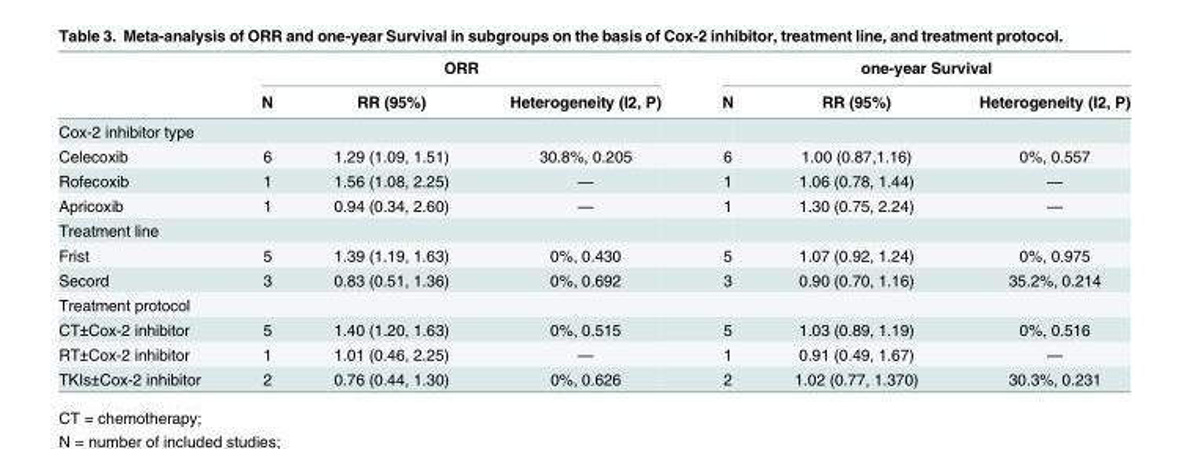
<table><thead><tr><td rowspan="2"></td><td colspan="3">ORR</td><td colspan="3">one-year Survival</td></tr><tr><td>N</td><td>RR (95%)</td><td>Heterogeneity (I2, P)</td><td>N</td><td>RR (95%)</td><td>Heterogeneity (I2, P)</td></tr></thead><tbody><tr><td colspan="7">Cox-2 inhibitor type</td></tr><tr><td>Celecoxib</td><td>6</td><td>1.29 (1.09, 1.51)</td><td>30.8%, 0.205</td><td>6</td><td>1.00 (0.87,1.16)</td><td>0%, 0.557</td></tr><tr><td>Rofecoxib</td><td>1</td><td>1.56 (1.08, 2.25)</td><td>—</td><td>1</td><td>1.06 (0.78, 1.44)</td><td>—</td></tr><tr><td>Apricoxib</td><td>1</td><td>0.94 (0.34, 2.60)</td><td>—</td><td>1</td><td>1.30 (0.75, 2.24)</td><td>—</td></tr><tr><td colspan="7">Treatment line</td></tr><tr><td>Frist</td><td>5</td><td>1.39 (1.19, 1.63)</td><td>0%, 0.430</td><td>5</td><td>1.07 (0.92, 1.24)</td><td>0%, 0.975</td></tr><tr><td>Secord</td><td>3</td><td>0.83 (0.51, 1.36)</td><td>0%, 0.692</td><td>3</td><td>0.90 (0.70, 1.16)</td><td>35.2%, 0.214</td></tr><tr><td colspan="7">Treatment protocol</td></tr><tr><td>CT±Cox-2 inhibitor</td><td>5</td><td>1.40 (1.20, 1.63)</td><td>0%, 0.515</td><td>5</td><td>1.03 (0.89, 1.19)</td><td>0%, 0.516</td></tr><tr><td>RT±Cox-2 inhibitor</td><td>1</td><td>1.01 (0.46, 2.25)</td><td>—</td><td>1</td><td>0.91 (0.49, 1.67)</td><td>—</td></tr><tr><td>TKIs±Cox-2 inhibitor</td><td>2</td><td>0.76 (0.44, 1.30)</td><td>0%, 0.626</td><td>2</td><td>1.02 (0.77, 1.370)</td><td>30.3%, 0.231</td></tr></tbody></table>